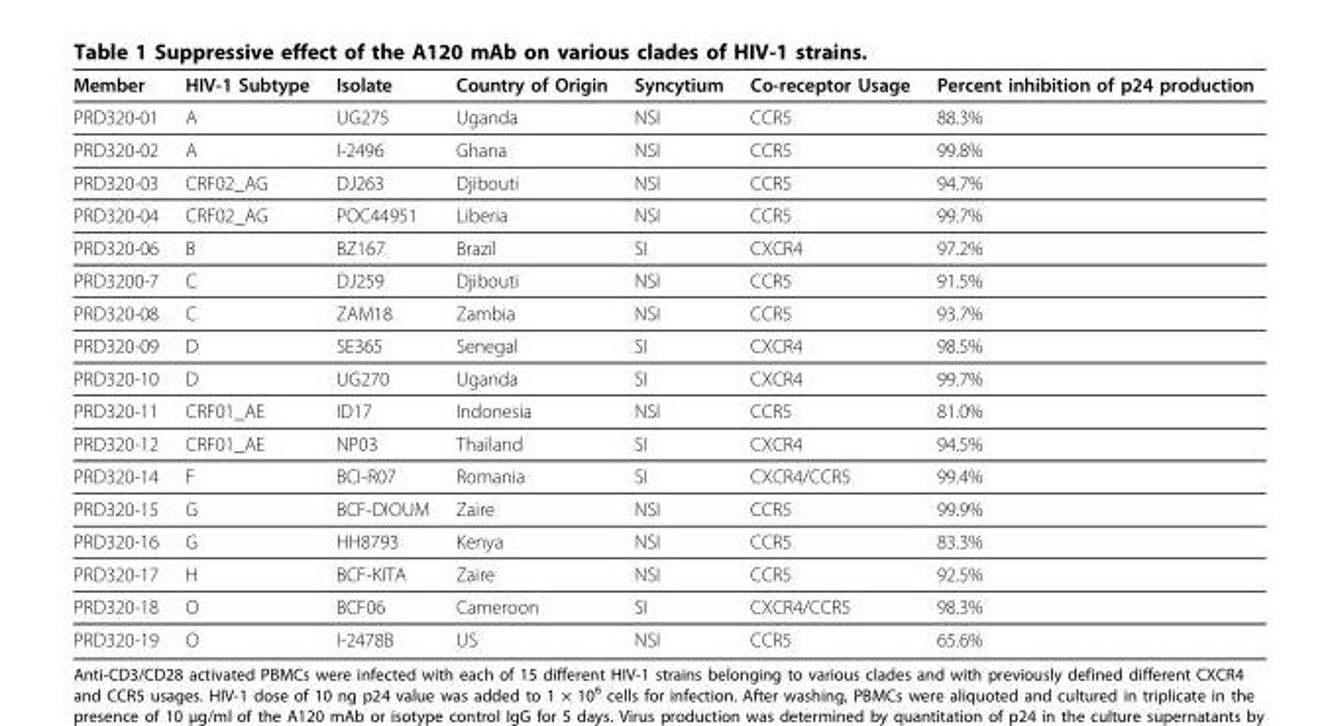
<table><thead><tr><td>Member</td><td>HIV-1 Subtype</td><td>Isolate</td><td>Country of Origin</td><td>Syncytium</td><td>Co-receptor Usage</td><td>Percent inhibition of p24 production</td></tr></thead><tbody><tr><td>PRD320-01</td><td>A</td><td>UG275</td><td>Uganda</td><td>NSI</td><td>CCR5</td><td>88.3%</td></tr><tr><td>PRD320-02</td><td>A</td><td>I-2496</td><td>Ghana</td><td>NSI</td><td>CCR5</td><td>99.8%</td></tr><tr><td>PRD320-03</td><td>CRF02_AG</td><td>DJ263</td><td>Djibouti</td><td>NSI</td><td>CCR5</td><td>94.7%</td></tr><tr><td>PRD320-04</td><td>CRF02_AG</td><td>POC44951</td><td>Liberia</td><td>NSI</td><td>CCR5</td><td>99.7%</td></tr><tr><td>PRD320-06</td><td>B</td><td>BZ167</td><td>Brazil</td><td>SI</td><td>CXCR4</td><td>97.2%</td></tr><tr><td>PRD3200-7</td><td>C</td><td>DJ259</td><td>Djibouti</td><td>NSI</td><td>CCR5</td><td>91.5%</td></tr><tr><td>PRD320-08</td><td>C</td><td>ZAM18</td><td>Zambia</td><td>NSI</td><td>CCR5</td><td>93.7%</td></tr><tr><td>PRD320-09</td><td>D</td><td>SE365</td><td>Senegal</td><td>SI</td><td>CXCR4</td><td>98.5%</td></tr><tr><td>PRD320-10</td><td>D</td><td>UG270</td><td>Uganda</td><td>SI</td><td>CXCR4</td><td>99.7%</td></tr><tr><td>PRD320-11</td><td>CRF01_AE</td><td>ID17</td><td>Indonesia</td><td>NSI</td><td>CCR5</td><td>81.0%</td></tr><tr><td>PRD320-12</td><td>CRF01_AE</td><td>NP03</td><td>Thailand</td><td>SI</td><td>CXCR4</td><td>94.5%</td></tr><tr><td>PRD320-14</td><td>F</td><td>BCI-R07</td><td>Romania</td><td>SI</td><td>CXCR4/CCR5</td><td>99.4%</td></tr><tr><td>PRD320-15</td><td>G</td><td>BCF-DIOUM</td><td>Zaire</td><td>NSI</td><td>CCR5</td><td>99.9%</td></tr><tr><td>PRD320-16</td><td>G</td><td>HH8793</td><td>Kenya</td><td>NSI</td><td>CCR5</td><td>83.3%</td></tr><tr><td>PRD320-17</td><td>H</td><td>BCF-KITA</td><td>Zaire</td><td>NSI</td><td>CCR5</td><td>92.5%</td></tr><tr><td>PRD320-18</td><td>O</td><td>BCF06</td><td>Cameroon</td><td>SI</td><td>CXCR4/CCR5</td><td>98.3%</td></tr><tr><td>PRD320-19</td><td>O</td><td>I-2478B</td><td>US</td><td>NSI</td><td>CCR5</td><td>65.6%</td></tr></tbody></table>